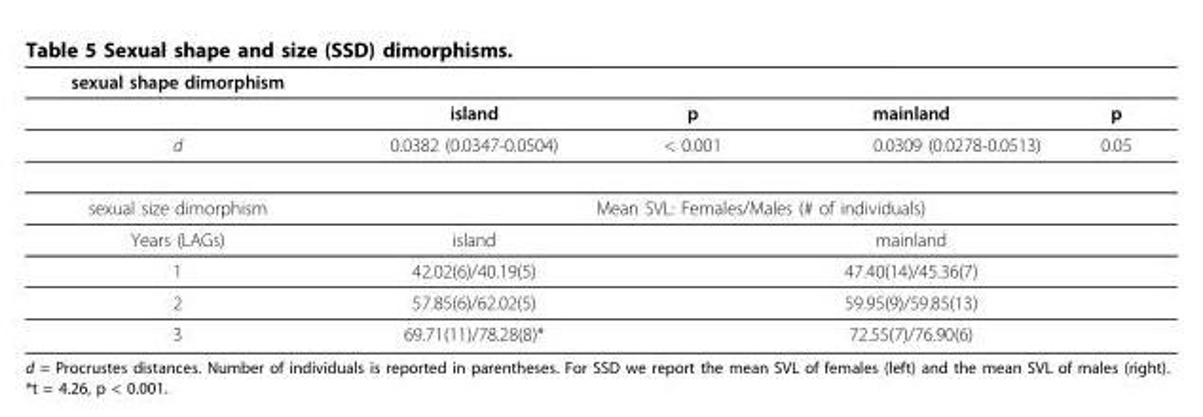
<table><thead><tr><td>sexual shape dimorphism</td><td></td><td></td><td></td><td></td></tr></thead><tbody><tr><td></td><td>island</td><td>p</td><td>mainland</td><td>p</td></tr><tr><td>d</td><td>0.0382 (0.0347-0.0504)</td><td>&lt; 0.001</td><td>0.0309 (0.0278-0.0513)</td><td>0.05</td></tr><tr><td>sexual size dimorphism</td><td colspan="4">Mean SVL: Females/Males (# of individuals)</td></tr><tr><td>Years (LAGs)</td><td>island</td><td></td><td>mainland</td><td></td></tr><tr><td>1</td><td>42.02(6)/40.19(5)</td><td></td><td>47.40(14)/45.36(7)</td><td></td></tr><tr><td>2</td><td>57.85(6)/62.02(5)</td><td></td><td>59.95(9)/59.85(13)</td><td></td></tr><tr><td>3</td><td>69.71(11)/78.28(8)*</td><td></td><td>72.55(7)/76.90(6)</td><td></td></tr></tbody></table>